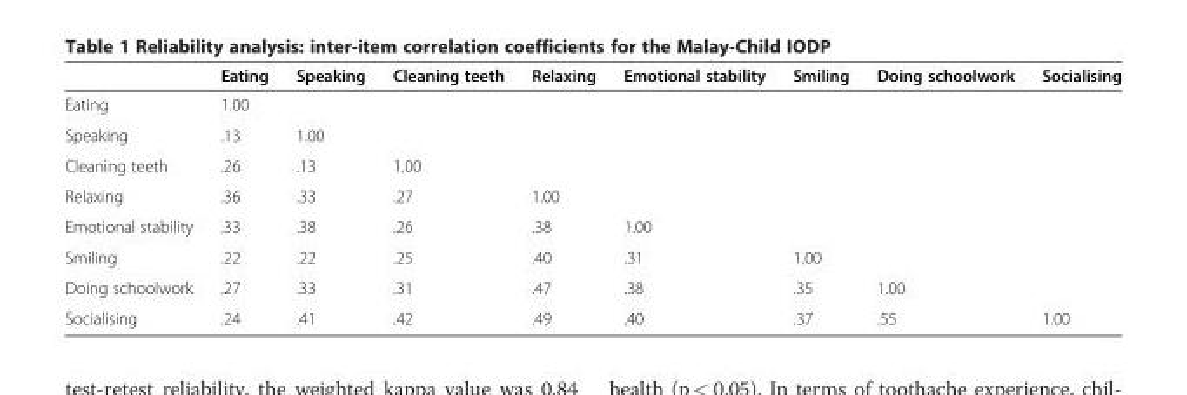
<table><thead><tr><td></td><td>Eating</td><td>Speaking</td><td>Cleaning teeth</td><td>Relaxing</td><td>Emotional stability</td><td>Smiling</td><td>Doing schoolwork</td><td>Socialising</td></tr></thead><tbody><tr><td>Eating</td><td>1.00</td><td></td><td></td><td></td><td></td><td></td><td></td><td></td></tr><tr><td>Speaking</td><td>.13</td><td>1.00</td><td></td><td></td><td></td><td></td><td></td><td></td></tr><tr><td>Cleaning teeth</td><td>.26</td><td>.13</td><td>1.00</td><td></td><td></td><td></td><td></td><td></td></tr><tr><td>Relaxing</td><td>.36</td><td>.33</td><td>.27</td><td>1.00</td><td></td><td></td><td></td><td></td></tr><tr><td>Emotional stability</td><td>.33</td><td>.38</td><td>.26</td><td>.38</td><td>1.00</td><td></td><td></td><td></td></tr><tr><td>Smiling</td><td>.22</td><td>.22</td><td>.25</td><td>.40</td><td>.31</td><td>1.00</td><td></td><td></td></tr><tr><td>Doing schoolwork</td><td>.27</td><td>.33</td><td>.31</td><td>.47</td><td>.38</td><td>.35</td><td>1.00</td><td></td></tr><tr><td>Socialising</td><td>.24</td><td>.41</td><td>.42</td><td>.49</td><td>.40</td><td>.37</td><td>.55</td><td>1.00</td></tr></tbody></table>